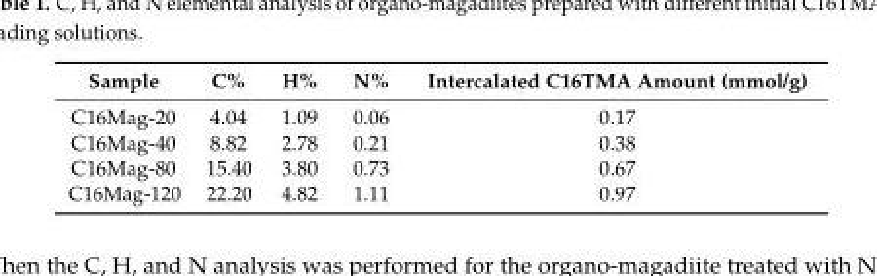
<table><thead><tr><td>Sample</td><td>C%</td><td>H%</td><td>N%</td><td>Intercalated C16TMA Amount (mmol/g)</td></tr></thead><tbody><tr><td>C16Mag-20</td><td>4.04</td><td>1.09</td><td>0.06</td><td>0.17</td></tr><tr><td>C16Mag-40</td><td>8.82</td><td>2.78</td><td>0.21</td><td>0.38</td></tr><tr><td>C16Mag-80</td><td>15.40</td><td>3.80</td><td>0.73</td><td>0.67</td></tr><tr><td>C16Mag-120</td><td>22.20</td><td>4.82</td><td>1.11</td><td>0.97</td></tr></tbody></table>